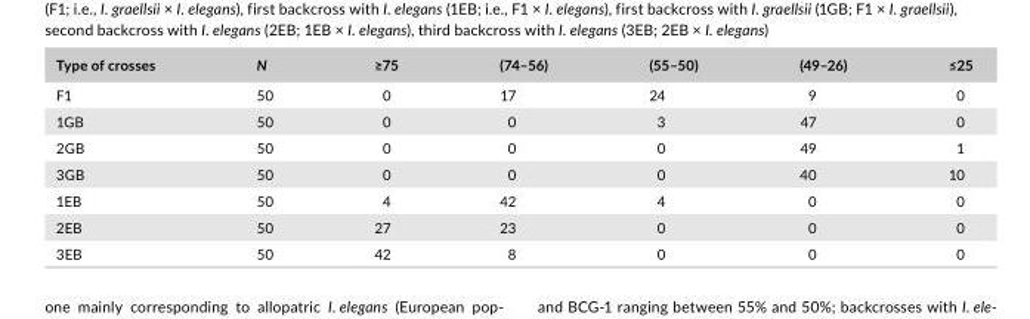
<table><thead><tr><td>Type of crosses</td><td>N</td><td>≥75</td><td>(74–56)</td><td>(55–50)</td><td>(49–26)</td><td>≤25</td></tr></thead><tbody><tr><td>F1</td><td>50</td><td>0</td><td>17</td><td>24</td><td>9</td><td>0</td></tr><tr><td>1GB</td><td>50</td><td>0</td><td>0</td><td>3</td><td>47</td><td>0</td></tr><tr><td>2GB</td><td>50</td><td>0</td><td>0</td><td>0</td><td>49</td><td>1</td></tr><tr><td>3GB</td><td>50</td><td>0</td><td>0</td><td>0</td><td>40</td><td>10</td></tr><tr><td>1EB</td><td>50</td><td>4</td><td>42</td><td>4</td><td>0</td><td>0</td></tr><tr><td>2EB</td><td>50</td><td>27</td><td>23</td><td>0</td><td>0</td><td>0</td></tr><tr><td>3EB</td><td>50</td><td>42</td><td>8</td><td>0</td><td>0</td><td>0</td></tr></tbody></table>